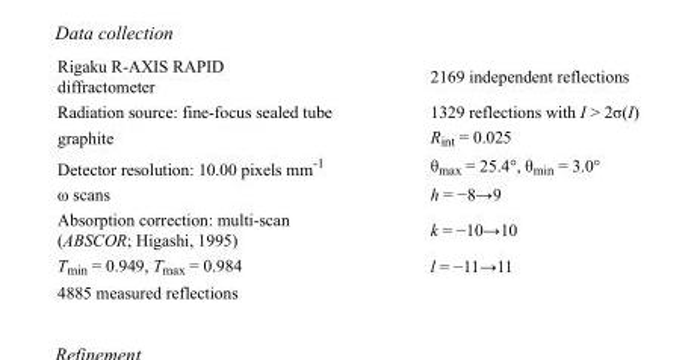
<table><tbody><tr><td>Rigaku R-AXIS RAPID diffractometer</td><td>2169 independent reflections</td></tr><tr><td>Radiation source: fine-focus sealed tube</td><td>1329 reflections with I &gt; 2σ(I)</td></tr><tr><td>graphite</td><td>R<sub>int</sub> = 0.025</td></tr><tr><td>Detector resolution: 10.00 pixels mm<sup>-1</sup></td><td>θ<sub>max</sub> = 25.4°, θ<sub>min</sub> = 3.0°</td></tr><tr><td>ω scans</td><td>h = −8→9</td></tr><tr><td>Absorption correction: multi-scan (ABSCOR; Higashi, 1995)</td><td>k = −10→10</td></tr><tr><td>T<sub>min</sub> = 0.949, T<sub>max</sub> = 0.984</td><td>l = −11→11</td></tr><tr><td>4885 measured reflections</td><td></td></tr></tbody></table>